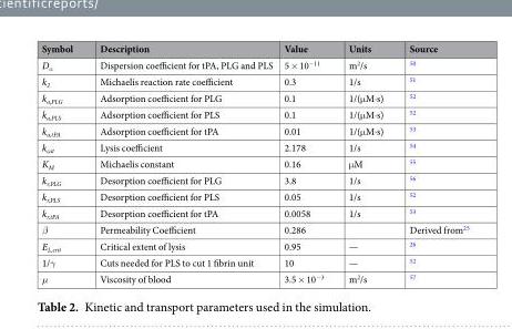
<table><thead><tr><td>Symbol</td><td>Description</td><td>Value</td><td>Units</td><td>Source</td></tr></thead><tbody><tr><td>D<sub>α</sub></td><td>Dispersion coefficient for tPA, PLG and PLS</td><td>5 × 10<sup>−11</sup></td><td>m<sup>2</sup>/s</td><td><sup>50</sup></td></tr><tr><td>k<sub>2</sub></td><td>Michaelis reaction rate coefficient</td><td>0.3</td><td>1/s</td><td><sup>51</sup></td></tr><tr><td>k<sub>a,PLG</sub></td><td>Adsorption coefficient for PLG</td><td>0.1</td><td>1/(μM·s)</td><td><sup>52</sup></td></tr><tr><td>k<sub>a,PLS</sub></td><td>Adsorption coefficient for PLS</td><td>0.1</td><td>1/(μM·s)</td><td><sup>52</sup></td></tr><tr><td>k<sub>a,tPA</sub></td><td>Adsorption coefficient for tPA</td><td>0.01</td><td>1/(μM·s)</td><td><sup>53</sup></td></tr><tr><td>k<sub>cat</sub></td><td>Lysis coefficient</td><td>2.178</td><td>1/s</td><td><sup>54</sup></td></tr><tr><td>K<sub>M</sub></td><td>Michaelis constant</td><td>0.16</td><td>μM</td><td><sup>55</sup></td></tr><tr><td>k<sub>r,PLG</sub></td><td>Desorption coefficient for PLG</td><td>3.8</td><td>1/s</td><td><sup>56</sup></td></tr><tr><td>k<sub>r,PLS</sub></td><td>Desorption coefficient for PLS</td><td>0.05</td><td>1/s</td><td><sup>52</sup></td></tr><tr><td>k<sub>r,tPA</sub></td><td>Desorption coefficient for tPA</td><td>0.0058</td><td>1/s</td><td><sup>53</sup></td></tr><tr><td>β</td><td>Permeability Coefficient</td><td>0.286</td><td></td><td>Derived from<sup>25</sup></td></tr><tr><td>E<sub>L,crit</sub></td><td>Critical extent of lysis</td><td>0.95</td><td>—</td><td><sup>26</sup></td></tr><tr><td>1/γ</td><td>Cuts needed for PLS to cut 1 fibrin unit</td><td>10</td><td>—</td><td><sup>52</sup></td></tr><tr><td>μ</td><td>Viscosity of blood</td><td>3.5 × 10<sup>−3</sup></td><td>m<sup>2</sup>/s</td><td><sup>57</sup></td></tr></tbody></table>